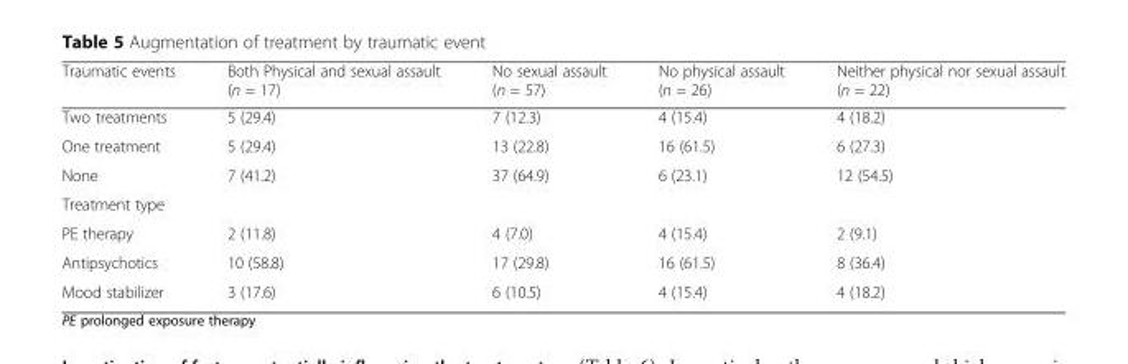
<table><thead><tr><td>Traumatic events</td><td>Both Physical and sexual assault (n = 17)</td><td>No sexual assault (n = 57)</td><td>No physical assault (n = 26)</td><td>Neither physical nor sexual assault (n = 22)</td></tr></thead><tbody><tr><td>Two treatments</td><td>5 (29.4)</td><td>7 (12.3)</td><td>4 (15.4)</td><td>4 (18.2)</td></tr><tr><td>One treatment</td><td>5 (29.4)</td><td>13 (22.8)</td><td>16 (61.5)</td><td>6 (27.3)</td></tr><tr><td>None</td><td>7 (41.2)</td><td>37 (64.9)</td><td>6 (23.1)</td><td>12 (54.5)</td></tr><tr><td colspan="5">Treatment type</td></tr><tr><td>PE therapy</td><td>2 (11.8)</td><td>4 (7.0)</td><td>4 (15.4)</td><td>2 (9.1)</td></tr><tr><td>Antipsychotics</td><td>10 (58.8)</td><td>17 (29.8)</td><td>16 (61.5)</td><td>8 (36.4)</td></tr><tr><td>Mood stabilizer</td><td>3 (17.6)</td><td>6 (10.5)</td><td>4 (15.4)</td><td>4 (18.2)</td></tr></tbody></table>